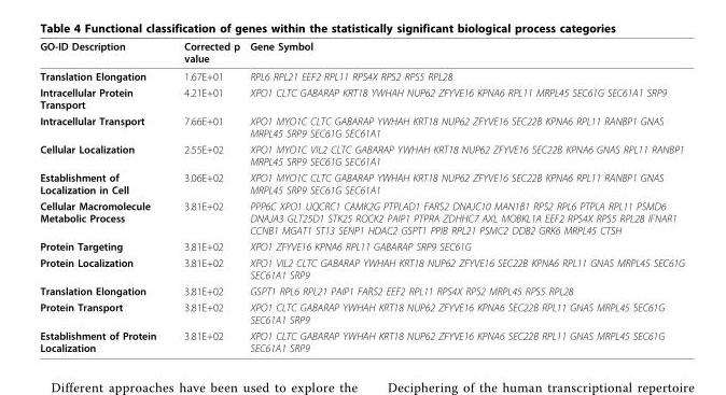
<table><thead><tr><td>GO-ID Description</td><td>Corrected p value</td><td>Gene Symbol</td></tr></thead><tbody><tr><td>Translation Elongation</td><td>1.67E+01</td><td>RPL6 RPL21 EEF2 RPL11 RPS4X RPS2 RPS5 RPL28</td></tr><tr><td>Intracellular Protein Transport</td><td>4.21E+01</td><td>XPO1 CLTC GABARAP KRT18 YWHAH NUP62 ZFYVE16 KPNA6 RPL11 MRPL45 SEC61G SEC61A1 SRP9</td></tr><tr><td>Intracellular Transport</td><td>7.66E+01</td><td>XPO1 MYO1C CLTC GABARAP YWHAH KRT18 NUP62 ZFYVE16 SEC22B KPNA6 RPL11 RANBP1 GNAS MRPL45 SRP9 SEC61G SEC61A1</td></tr><tr><td>Cellular Localization</td><td>2.55E+02</td><td>XPO1 MYO1C VIL2 CLTC GABARAP YWHAH KRT18 NUP62 ZFYVE16 SEC22B KPNA6 GNAS RPL11 RANBP1 MRPL45 SRP9 SEC61G SEC61A1</td></tr><tr><td>Establishment of Localization in Cell</td><td>3.06E+02</td><td>XPO1 MYO1C CLTC GABARAP YWHAH KRT18 NUP62 ZFYVE16 SEC22B KPNA6 RPL11 RANBP1 GNAS MRPL45 SRP9 SEC61G SEC61A1</td></tr><tr><td>Cellular Macromolecule Metabolic Process</td><td>3.81E+02</td><td>PPP6C XPO1 UQCRC1 CAMK2G PTPLAD1 FARS2 DNAJC10 MAN1B1 RPS2 RPL6 PTPLA RPL11 PSMD6 DNAJA3 GLT25D1 STK25 ROCK2 PAIP1 PTPRA ZDHHC7 AXL MOBKL1A EEF2 RPS4X RPS5 RPL28 IFNAR1 CCNB1 MGAT1 ST13 SENP1 HDAC2 GSPT1 PPIB RPL21 PSMC2 DDB2 GRK6 MRPL45 CTSH</td></tr><tr><td>Protein Targeting</td><td>3.81E+02</td><td>XPO1 ZFYVE16 KPNA6 RPL11 GABARAP SRP9 SEC61G</td></tr><tr><td>Protein Localization</td><td>3.81E+02</td><td>XPO1 VIL2 CLTC GABARAP YWHAH KRT18 NUP62 ZFYVE16 SEC22B KPNA6 RPL11 GNAS MRPL45 SEC61G SEC61A1 SRP9</td></tr><tr><td>Translation Elongation</td><td>3.81E+02</td><td>GSPT1 RPL6 RPL21 PAIP1 FARS2 EEF2 RPL11 RPS4X RPS2 MRPL45 RPS5 RPL28</td></tr><tr><td>Protein Transport</td><td>3.81E+02</td><td>XPO1 CLTC GABARAP YWHAH KRT18 NUP62 ZFYVE16 KPNA6 SEC22B RPL11 GNAS MRPL45 SEC61G SEC61A1 SRP9</td></tr><tr><td>Establishment of Protein Localization</td><td>3.81E+02</td><td>XPO1 CLTC GABARAP YWHAH KRT18 NUP62 ZFYVE16 KPNA6 SEC22B RPL11 GNAS MRPL45 SEC61G SEC61A1 SRP9</td></tr></tbody></table>